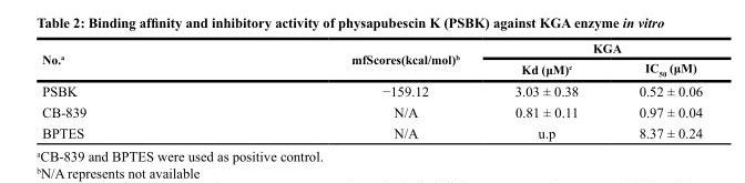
<table><thead><tr><td rowspan="2">No.<sup>a</sup></td><td rowspan="2">mfScores(kcal/mol)<sup>b</sup></td><td colspan="2">KGA</td></tr><tr><td>Kd (μM)<sup>c</sup></td><td>IC<sub>50</sub> (μM)</td></tr></thead><tbody><tr><td>PSBK</td><td>−159.12</td><td>3.03 ± 0.38</td><td>0.52 ± 0.06</td></tr><tr><td>CB-839</td><td>N/A</td><td>0.81 ± 0.11</td><td>0.97 ± 0.04</td></tr><tr><td>BPTES</td><td>N/A</td><td>u.p</td><td>8.37 ± 0.24</td></tr></tbody></table>